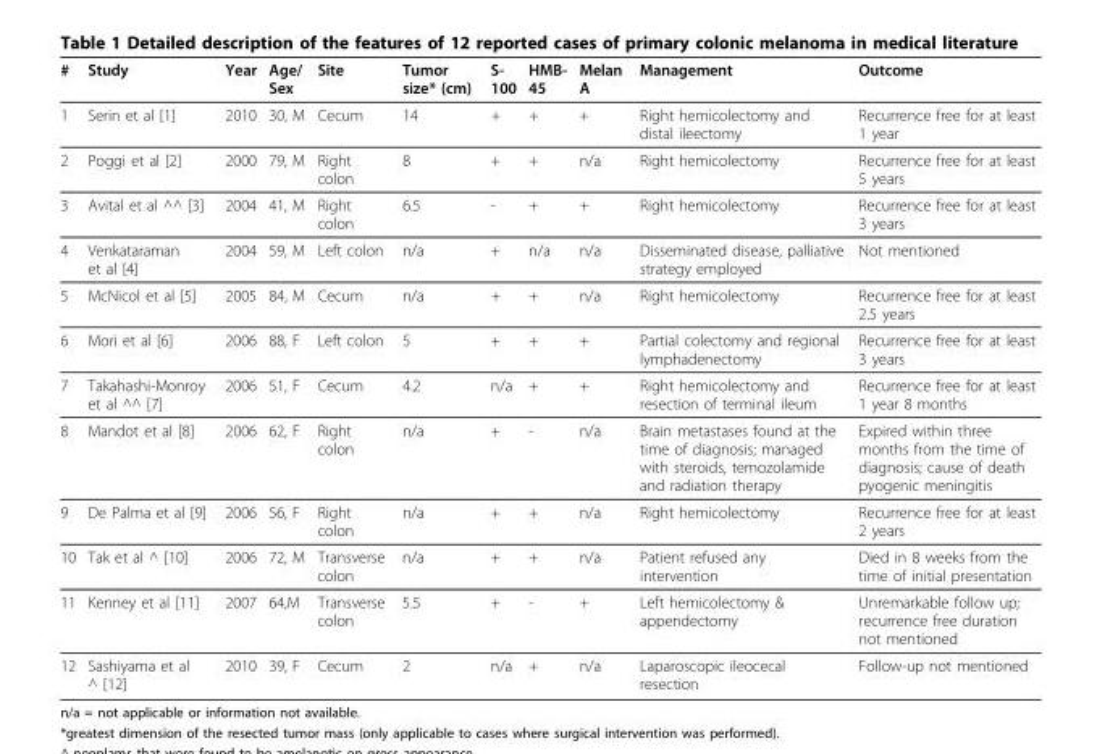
<table><thead><tr><td>#</td><td>Study</td><td>Year</td><td>Age/ Sex</td><td>Site</td><td>Tumor size* (cm)</td><td>S- 100</td><td>HMB- 45</td><td>Melan A</td><td>Management</td><td>Outcome</td></tr></thead><tbody><tr><td>1</td><td>Serin et al [1]</td><td>2010</td><td>30, M</td><td>Cecum</td><td>14</td><td>+</td><td>+</td><td>+</td><td>Right hemicolectomy and distal ileectomy</td><td>Recurrence free for at least 1 year</td></tr><tr><td>2</td><td>Poggi et al [2]</td><td>2000</td><td>79, M</td><td>Right colon</td><td>8</td><td>+</td><td>+</td><td>n/a</td><td>Right hemicolectomy</td><td>Recurrence free for at least 5 years</td></tr><tr><td>3</td><td>Avital et al ^^ [3]</td><td>2004</td><td>41, M</td><td>Right colon</td><td>6.5</td><td>-</td><td>+</td><td>+</td><td>Right hemicolectomy</td><td>Recurrence free for at least 3 years</td></tr><tr><td>4</td><td>Venkataraman et al [4]</td><td>2004</td><td>59, M</td><td>Left colon</td><td>n/a</td><td>+</td><td>n/a</td><td>n/a</td><td>Disseminated disease, palliative strategy employed</td><td>Not mentioned</td></tr><tr><td>5</td><td>McNicol et al [5]</td><td>2005</td><td>84, M</td><td>Cecum</td><td>n/a</td><td>+</td><td>+</td><td>n/a</td><td>Right hemicolectomy</td><td>Recurrence free for at least 2.5 years</td></tr><tr><td>6</td><td>Mori et al [6]</td><td>2006</td><td>88, F</td><td>Left colon</td><td>5</td><td>+</td><td>+</td><td>+</td><td>Partial colectomy and regional lymphadenectomy</td><td>Recurrence free for at least 3 years</td></tr><tr><td>7</td><td>Takahashi-Monroy et al ^^ [7]</td><td>2006</td><td>51, F</td><td>Cecum</td><td>4.2</td><td>n/a</td><td>+</td><td>+</td><td>Right hemicolectomy and resection of terminal ileum</td><td>Recurrence free for at least 1 year 8 months</td></tr><tr><td>8</td><td>Mandot et al [8]</td><td>2006</td><td>62, F</td><td>Right colon</td><td>n/a</td><td>+</td><td>-</td><td>n/a</td><td>Brain metastases found at the time of diagnosis; managed with steroids, temozolamide and radiation therapy</td><td>Expired within three months from the time of diagnosis; cause of death pyogenic meningitis</td></tr><tr><td>9</td><td>De Palma et al [9]</td><td>2006</td><td>56, F</td><td>Right colon</td><td>n/a</td><td>+</td><td>+</td><td>n/a</td><td>Right hemicolectomy</td><td>Recurrence free for at least 2 years</td></tr><tr><td>10</td><td>Tak et al ^ [10]</td><td>2006</td><td>72, M</td><td>Transverse colon</td><td>n/a</td><td>+</td><td>+</td><td>n/a</td><td>Patient refused any intervention</td><td>Died in 8 weeks from the time of initial presentation</td></tr><tr><td>11</td><td>Kenney et al [11]</td><td>2007</td><td>64,M</td><td>Transverse colon</td><td>5.5</td><td>+</td><td>-</td><td>+</td><td>Left hemicolectomy &amp; appendectomy</td><td>Unremarkable follow up; recurrence free duration not mentioned</td></tr><tr><td>12</td><td>Sashiyama et al ^ [12]</td><td>2010</td><td>39, F</td><td>Cecum</td><td>2</td><td>n/a</td><td>+</td><td>n/a</td><td>Laparoscopic ileocecal resection</td><td>Follow-up not mentioned</td></tr></tbody></table>